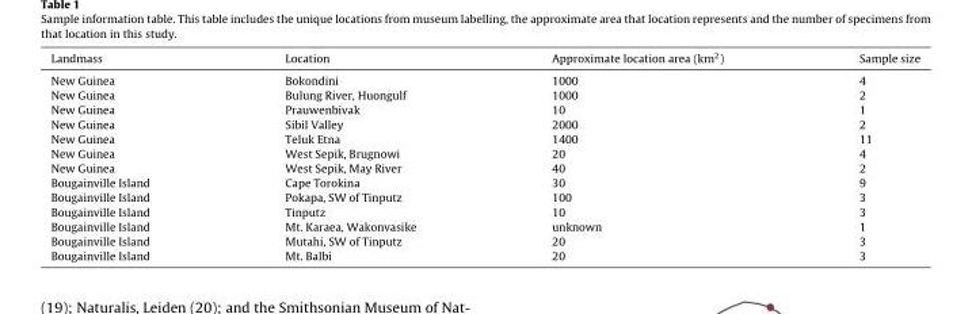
<table><thead><tr><td>Landmass</td><td>Location</td><td>Approximate location area (km<sup>2</sup>)</td><td>Sample size</td></tr></thead><tbody><tr><td>New Guinea</td><td>Bokondini</td><td>1000</td><td>4</td></tr><tr><td>New Guinea</td><td>Bulung River, Huongulf</td><td>1000</td><td>2</td></tr><tr><td>New Guinea</td><td>Prauwenbivak</td><td>10</td><td>1</td></tr><tr><td>New Guinea</td><td>Sibil Valley</td><td>2000</td><td>2</td></tr><tr><td>New Guinea</td><td>Teluk Etna</td><td>1400</td><td>11</td></tr><tr><td>New Guinea</td><td>West Sepik, Brugnowi</td><td>20</td><td>4</td></tr><tr><td>New Guinea</td><td>West Sepik, May River</td><td>40</td><td>2</td></tr><tr><td>Bougainville Island</td><td>Cape Torokina</td><td>30</td><td>9</td></tr><tr><td>Bougainville Island</td><td>Pokapa, SW of Tinputz</td><td>100</td><td>3</td></tr><tr><td>Bougainville Island</td><td>Tinputz</td><td>10</td><td>3</td></tr><tr><td>Bougainville Island</td><td>Mt. Karaea, Wakonvasike</td><td>unknown</td><td>1</td></tr><tr><td>Bougainville Island</td><td>Mutahi, SW of Tinputz</td><td>20</td><td>3</td></tr><tr><td>Bougainville Island</td><td>Mt. Balbi</td><td>20</td><td>3</td></tr></tbody></table>